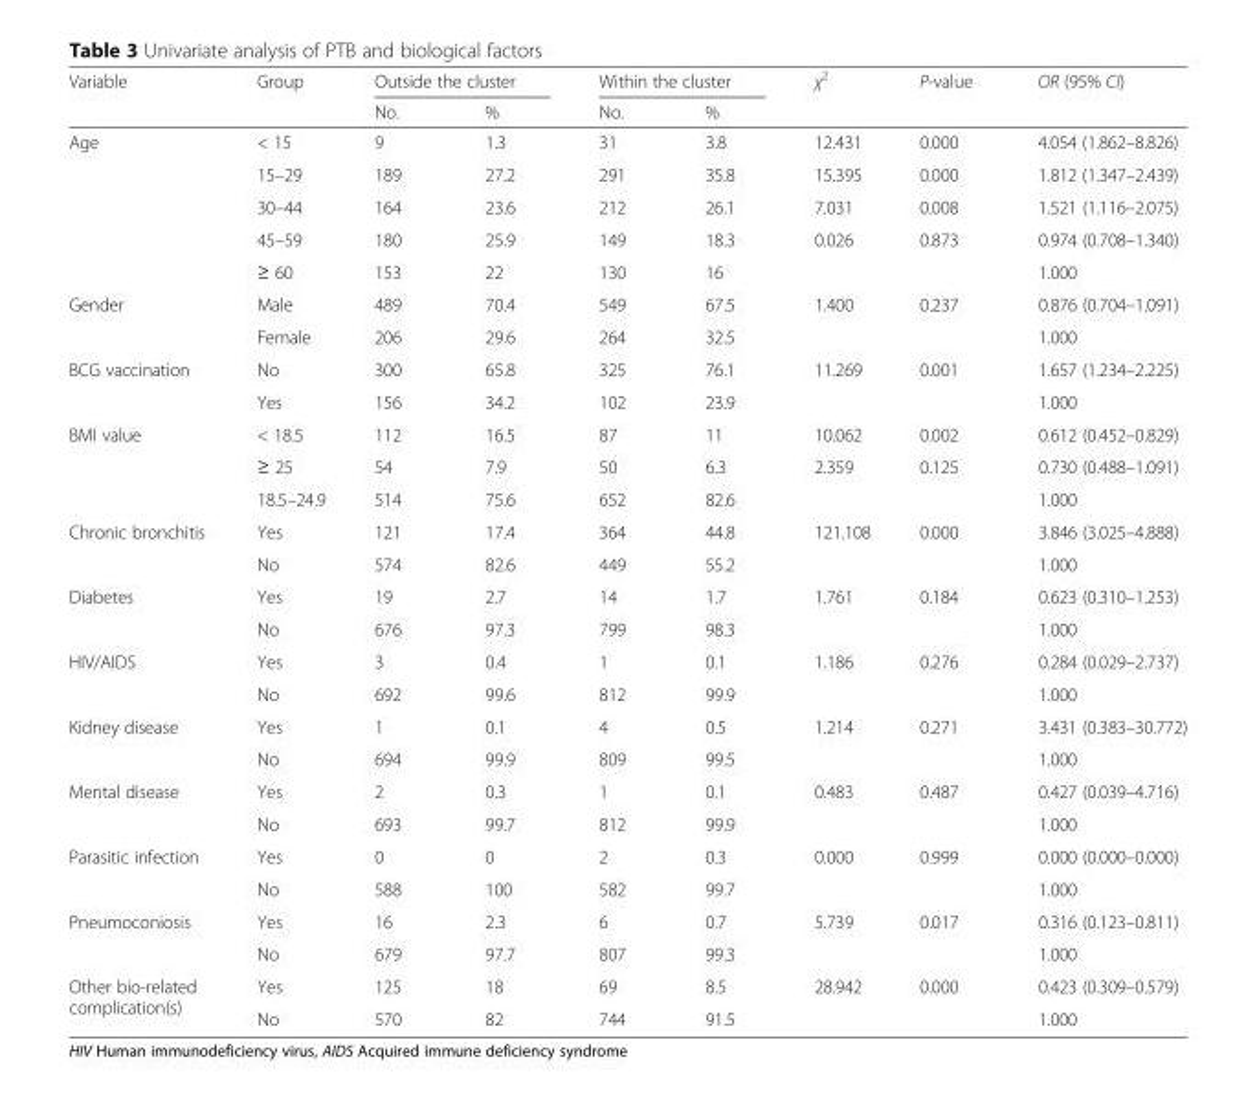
<table><thead><tr><td rowspan="2">Variable</td><td rowspan="2">Group</td><td colspan="2">Outside the cluster</td><td colspan="2">Within the cluster</td><td rowspan="2">χ<sup>2</sup></td><td rowspan="2">P-value</td><td rowspan="2">OR (95% CI)</td></tr><tr><td>No.</td><td>%</td><td>No.</td><td>%</td></tr></thead><tbody><tr><td rowspan="5">Age</td><td>&lt; 15</td><td>9</td><td>1.3</td><td>31</td><td>3.8</td><td>12.431</td><td>0.000</td><td>4.054 (1.862–8.826)</td></tr><tr><td>15–29</td><td>189</td><td>27.2</td><td>291</td><td>35.8</td><td>15.395</td><td>0.000</td><td>1.812 (1.347–2.439)</td></tr><tr><td>30–44</td><td>164</td><td>23.6</td><td>212</td><td>26.1</td><td>7.031</td><td>0.008</td><td>1.521 (1.116–2.075)</td></tr><tr><td>45–59</td><td>180</td><td>25.9</td><td>149</td><td>18.3</td><td>0.026</td><td>0.873</td><td>0.974 (0.708–1.340)</td></tr><tr><td>≥ 60</td><td>153</td><td>22</td><td>130</td><td>16</td><td></td><td></td><td>1.000</td></tr><tr><td rowspan="2">Gender</td><td>Male</td><td>489</td><td>70.4</td><td>549</td><td>67.5</td><td>1.400</td><td>0.237</td><td>0.876 (0.704–1.091)</td></tr><tr><td>Female</td><td>206</td><td>29.6</td><td>264</td><td>32.5</td><td></td><td></td><td>1.000</td></tr><tr><td rowspan="2">BCG vaccination</td><td>No</td><td>300</td><td>65.8</td><td>325</td><td>76.1</td><td>11.269</td><td>0.001</td><td>1.657 (1.234–2.225)</td></tr><tr><td>Yes</td><td>156</td><td>34.2</td><td>102</td><td>23.9</td><td></td><td></td><td>1.000</td></tr><tr><td rowspan="3">BMI value</td><td>&lt; 18.5</td><td>112</td><td>16.5</td><td>87</td><td>11</td><td>10.062</td><td>0.002</td><td>0.612 (0.452–0.829)</td></tr><tr><td>≥ 25</td><td>54</td><td>7.9</td><td>50</td><td>6.3</td><td>2.359</td><td>0.125</td><td>0.730 (0.488–1.091)</td></tr><tr><td>18.5–24.9</td><td>514</td><td>75.6</td><td>652</td><td>82.6</td><td></td><td></td><td>1.000</td></tr><tr><td rowspan="2">Chronic bronchitis</td><td>Yes</td><td>121</td><td>17.4</td><td>364</td><td>44.8</td><td>121.108</td><td>0.000</td><td>3.846 (3.025–4.888)</td></tr><tr><td>No</td><td>574</td><td>82.6</td><td>449</td><td>55.2</td><td></td><td></td><td>1.000</td></tr><tr><td rowspan="2">Diabetes</td><td>Yes</td><td>19</td><td>2.7</td><td>14</td><td>1.7</td><td>1.761</td><td>0.184</td><td>0.623 (0.310–1.253)</td></tr><tr><td>No</td><td>676</td><td>97.3</td><td>799</td><td>98.3</td><td></td><td></td><td>1.000</td></tr><tr><td rowspan="2">HIV/AIDS</td><td>Yes</td><td>3</td><td>0.4</td><td>1</td><td>0.1</td><td>1.186</td><td>0.276</td><td>0.284 (0.029–2.737)</td></tr><tr><td>No</td><td>692</td><td>99.6</td><td>812</td><td>99.9</td><td></td><td></td><td>1.000</td></tr><tr><td rowspan="2">Kidney disease</td><td>Yes</td><td>1</td><td>0.1</td><td>4</td><td>0.5</td><td>1.214</td><td>0.271</td><td>3.431 (0.383–30.772)</td></tr><tr><td>No</td><td>694</td><td>99.9</td><td>809</td><td>99.5</td><td></td><td></td><td>1.000</td></tr><tr><td rowspan="2">Mental disease</td><td>Yes</td><td>2</td><td>0.3</td><td>1</td><td>0.1</td><td>0.483</td><td>0.487</td><td>0.427 (0.039–4.716)</td></tr><tr><td>No</td><td>693</td><td>99.7</td><td>812</td><td>99.9</td><td></td><td></td><td>1.000</td></tr><tr><td rowspan="2">Parasitic infection</td><td>Yes</td><td>0</td><td>0</td><td>2</td><td>0.3</td><td>0.000</td><td>0.999</td><td>0.000 (0.000–0.000)</td></tr><tr><td>No</td><td>588</td><td>100</td><td>582</td><td>99.7</td><td></td><td></td><td>1.000</td></tr><tr><td rowspan="2">Pneumoconiosis</td><td>Yes</td><td>16</td><td>2.3</td><td>6</td><td>0.7</td><td>5.739</td><td>0.017</td><td>0.316 (0.123–0.811)</td></tr><tr><td>No</td><td>679</td><td>97.7</td><td>807</td><td>99.3</td><td></td><td></td><td>1.000</td></tr><tr><td rowspan="2">Other bio-related complication(s)</td><td>Yes</td><td>125</td><td>18</td><td>69</td><td>8.5</td><td>28.942</td><td>0.000</td><td>0.423 (0.309–0.579)</td></tr><tr><td>No</td><td>570</td><td>82</td><td>744</td><td>91.5</td><td></td><td></td><td>1.000</td></tr></tbody></table>